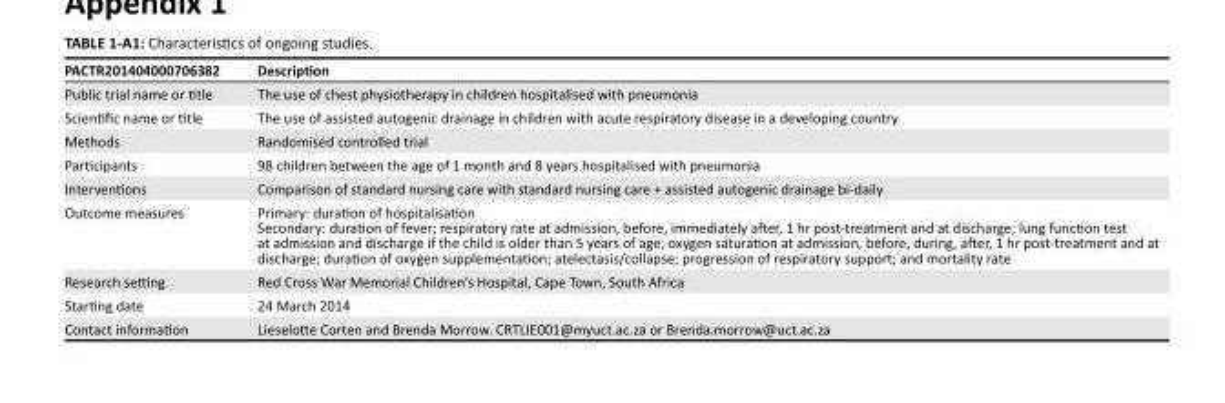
<table><thead><tr><td>PACTR201404000706382</td><td>Description</td></tr></thead><tbody><tr><td>Public trial name or title</td><td>The use of chest physiotherapy in children hospitalised with pneumonia</td></tr><tr><td>Scientific name or title</td><td>The use of assisted autogenic drainage in children with acute respiratory disease in a developing country</td></tr><tr><td>Methods</td><td>Randomised controlled trial</td></tr><tr><td>Participants</td><td>98 children between the age of 1 month and 8 years hospitalised with pneumonia</td></tr><tr><td>Interventions</td><td>Comparison of standard nursing care with standard nursing care + assisted autogenic drainage bi-daily</td></tr><tr><td>Outcome measures</td><td>Primary: duration of hospitalisation Secondary: duration of fever; respiratory rate at admission, before, immediately after, 1 hr post-treatment and at discharge; lung function test at admission and discharge if the child is older than 5 years of age; oxygen saturation at admission, before, during, after, 1 hr post-treatment and at discharge; duration of oxygen supplementation; atelectasis/collapse; progression of respiratory support; and mortality rate</td></tr><tr><td>Research setting</td><td>Red Cross War Memorial Children’s Hospital, Cape Town, South Africa</td></tr><tr><td>Starting date</td><td>24 March 2014</td></tr><tr><td>Contact information</td><td>Lieselotte Corten and Brenda Morrow. CRTLIE001@myuct.ac.za or Brenda.morrow@uct.ac.za</td></tr></tbody></table>